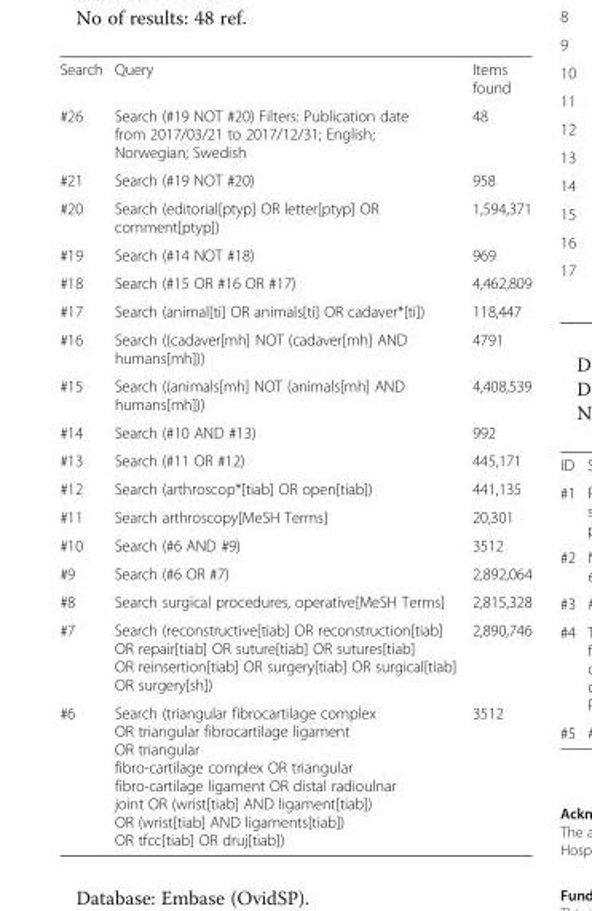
<table><tbody><tr><td>Search</td><td>Query</td><td>Items found</td></tr><tr><td>#26</td><td>Search (#19 NOT #20) Filters: Publication date from 2017/03/21 to 2017/12/31; English; Norwegian; Swedish</td><td>48</td></tr><tr><td>#21</td><td>Search (#19 NOT #20)</td><td>958</td></tr><tr><td>#20</td><td>Search (editorial[ptyp] OR letter[ptyp] OR comment[ptyp])</td><td>1,594,371</td></tr><tr><td>#19</td><td>Search (#14 NOT #18)</td><td>969</td></tr><tr><td>#18</td><td>Search (#15 OR #16 OR #17)</td><td>4,462,809</td></tr><tr><td>#17</td><td>Search (animal[ti] OR animals[ti] OR cadaver*[ti])</td><td>118,447</td></tr><tr><td>#16</td><td>Search ((cadaver[mh] NOT (cadaver[mh] AND humans[mh]))</td><td>4791</td></tr><tr><td>#15</td><td>Search ((animals[mh] NOT (animals[mh] AND humans[mh]))</td><td>4,408,539</td></tr><tr><td>#14</td><td>Search (#10 AND #13)</td><td>992</td></tr><tr><td>#13</td><td>Search (#11 OR #12)</td><td>445,171</td></tr><tr><td>#12</td><td>Search (arthroscop*[tiab] OR open[tiab])</td><td>441,135</td></tr><tr><td>#11</td><td>Search arthroscopy[MeSH Terms]</td><td>20,301</td></tr><tr><td>#10</td><td>Search (#6 AND #9)</td><td>3512</td></tr><tr><td>#9</td><td>Search (#6 OR #7)</td><td>2,892,064</td></tr><tr><td>#8</td><td>Search surgical procedures, operative[MeSH Terms]</td><td>2,815,328</td></tr><tr><td>#7</td><td>Search (reconstructive[tiab] OR reconstruction[tiab] OR repair[tiab] OR suture[tiab] OR sutures[tiab] OR reinsertion[tiab] OR surgery[tiab] OR surgical[tiab] OR surgery[sh])</td><td>2,890,746</td></tr><tr><td>#6</td><td>Search (triangular fibrocartilage complex OR triangular fibrocartilage ligament OR triangular fibro-cartilage complex OR triangular fibro-cartilage ligament OR distal radioulnar joint OR (wrist[tiab] AND ligament[tiab]) OR (wrist[tiab] AND ligaments[tiab]) OR tfcc[tiab] OR druj[tiab])</td><td>3512</td></tr></tbody></table>